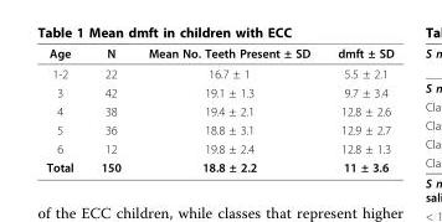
<table><thead><tr><td>Age</td><td>N</td><td>Mean No. Teeth Present ± SD</td><td>dmft ± SD</td></tr></thead><tbody><tr><td>1-2</td><td>22</td><td>16.7 ± 1</td><td>5.5 ± 2.1</td></tr><tr><td>3</td><td>42</td><td>19.1 ± 1.3</td><td>9.7 ± 3.4</td></tr><tr><td>4</td><td>38</td><td>19.4 ± 2.1</td><td>12.8 ± 2.6</td></tr><tr><td>5</td><td>36</td><td>18.8 ± 3.1</td><td>12.9 ± 2.7</td></tr><tr><td>6</td><td>12</td><td>19.8 ± 2.4</td><td>12.8 ± 1.3</td></tr><tr><td>Total</td><td>150</td><td>18.8 ± 2.2</td><td>11 ± 3.6</td></tr></tbody></table>